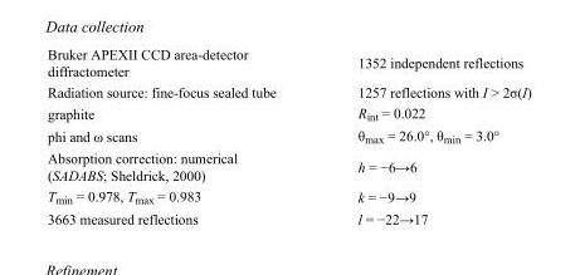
<table><tbody><tr><td>Bruker APEXII CCD area-detector diffractometer</td><td>1352 independent reflections</td></tr><tr><td>Radiation source: fine-focus sealed tube</td><td>1257 reflections with I &gt; 2σ(I)</td></tr><tr><td>graphite</td><td>R<sub>int</sub> = 0.022</td></tr><tr><td>phi and ω scans</td><td>θ<sub>max</sub> = 26.0°, θ<sub>min</sub> = 3.0°</td></tr><tr><td>Absorption correction: numerical (SADABS; Sheldrick, 2000)</td><td>h = −6→6</td></tr><tr><td>T<sub>min</sub> = 0.978, T<sub>max</sub> = 0.983</td><td>k = −9→9</td></tr><tr><td>3663 measured reflections</td><td>l = −22→17</td></tr></tbody></table>